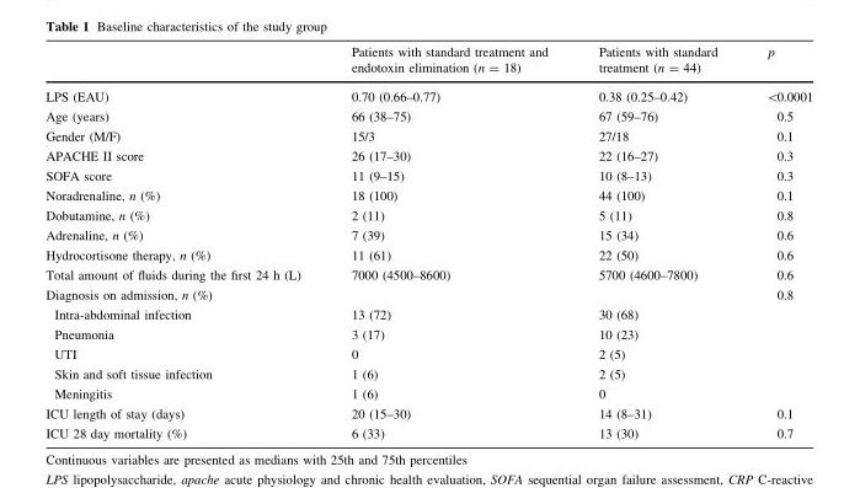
<table><thead><tr><td></td><td>Patients with standard treatment and endotoxin elimination (n = 18)</td><td>Patients with standard treatment (n = 44)</td><td>p</td></tr></thead><tbody><tr><td>LPS (EAU)</td><td>0.70 (0.66–0.77)</td><td>0.38 (0.25–0.42)</td><td>&lt;0.0001</td></tr><tr><td>Age (years)</td><td>66 (38–75)</td><td>67 (59–76)</td><td>0.5</td></tr><tr><td>Gender (M/F)</td><td>15/3</td><td>27/18</td><td>0.1</td></tr><tr><td>APACHE II score</td><td>26 (17–30)</td><td>22 (16–27)</td><td>0.3</td></tr><tr><td>SOFA score</td><td>11 (9–15)</td><td>10 (8–13)</td><td>0.3</td></tr><tr><td>Noradrenaline, n (%)</td><td>18 (100)</td><td>44 (100)</td><td>0.1</td></tr><tr><td>Dobutamine, n (%)</td><td>2 (11)</td><td>5 (11)</td><td>0.8</td></tr><tr><td>Adrenaline, n (%)</td><td>7 (39)</td><td>15 (34)</td><td>0.6</td></tr><tr><td>Hydrocortisone therapy, n (%)</td><td>11 (61)</td><td>22 (50)</td><td>0.6</td></tr><tr><td>Total amount of fluids during the first 24 h (L)</td><td>7000 (4500–8600)</td><td>5700 (4600–7800)</td><td>0.6</td></tr><tr><td>Diagnosis on admission, n (%)</td><td></td><td></td><td>0.8</td></tr><tr><td>Intra-abdominal infection</td><td>13 (72)</td><td>30 (68)</td><td></td></tr><tr><td>Pneumonia</td><td>3 (17)</td><td>10 (23)</td><td></td></tr><tr><td>UTI</td><td>0</td><td>2 (5)</td><td></td></tr><tr><td>Skin and soft tissue infection</td><td>1 (6)</td><td>2 (5)</td><td></td></tr><tr><td>Meningitis</td><td>1 (6)</td><td>0</td><td></td></tr><tr><td>ICU length of stay (days)</td><td>20 (15–30)</td><td>14 (8–31)</td><td>0.1</td></tr><tr><td>ICU 28 day mortality (%)</td><td>6 (33)</td><td>13 (30)</td><td>0.7</td></tr></tbody></table>